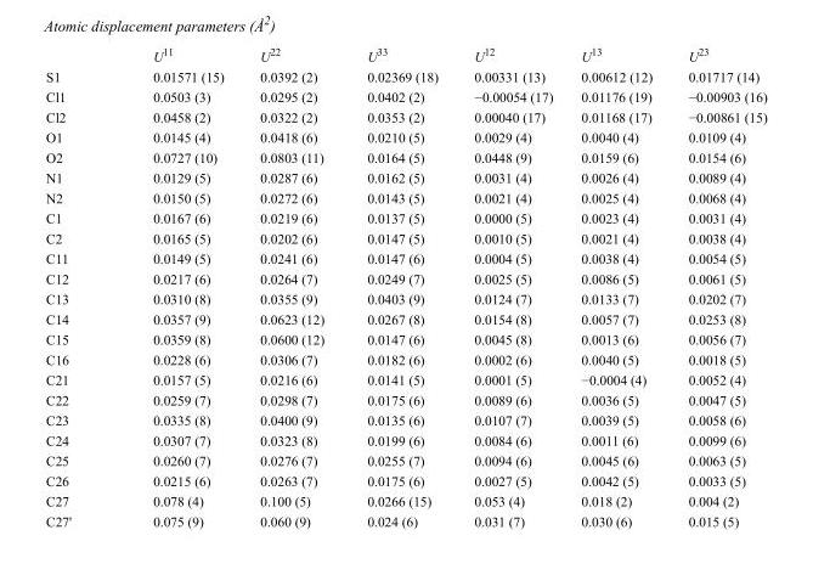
<table><thead><tr><td></td><td>U<sup>11</sup></td><td>U<sup>22</sup></td><td>U<sup>33</sup></td><td>U<sup>12</sup></td><td>U<sup>13</sup></td><td>U<sup>23</sup></td></tr></thead><tbody><tr><td>S1</td><td>0.01571 (15)</td><td>0.0392 (2)</td><td>0.02369 (18)</td><td>0.00331 (13)</td><td>0.00612 (12)</td><td>0.01717 (14)</td></tr><tr><td>Cl1</td><td>0.0503 (3)</td><td>0.0295 (2)</td><td>0.0402 (2)</td><td>−0.00054 (17)</td><td>0.01176 (19)</td><td>−0.00903 (16)</td></tr><tr><td>Cl2</td><td>0.0458 (2)</td><td>0.0322 (2)</td><td>0.0353 (2)</td><td>0.00040 (17)</td><td>0.01168 (17)</td><td>−0.00861 (15)</td></tr><tr><td>O1</td><td>0.0145 (4)</td><td>0.0418 (6)</td><td>0.0210 (5)</td><td>0.0029 (4)</td><td>0.0040 (4)</td><td>0.0109 (4)</td></tr><tr><td>O2</td><td>0.0727 (10)</td><td>0.0803 (11)</td><td>0.0164 (5)</td><td>0.0448 (9)</td><td>0.0159 (6)</td><td>0.0154 (6)</td></tr><tr><td>N1</td><td>0.0129 (5)</td><td>0.0287 (6)</td><td>0.0162 (5)</td><td>0.0031 (4)</td><td>0.0026 (4)</td><td>0.0089 (4)</td></tr><tr><td>N2</td><td>0.0150 (5)</td><td>0.0272 (6)</td><td>0.0143 (5)</td><td>0.0021 (4)</td><td>0.0025 (4)</td><td>0.0068 (4)</td></tr><tr><td>C1</td><td>0.0167 (6)</td><td>0.0219 (6)</td><td>0.0137 (5)</td><td>0.0000 (5)</td><td>0.0023 (4)</td><td>0.0031 (4)</td></tr><tr><td>C2</td><td>0.0165 (5)</td><td>0.0202 (6)</td><td>0.0147 (5)</td><td>0.0010 (5)</td><td>0.0021 (4)</td><td>0.0038 (4)</td></tr><tr><td>C11</td><td>0.0149 (5)</td><td>0.0241 (6)</td><td>0.0147 (6)</td><td>0.0004 (5)</td><td>0.0038 (4)</td><td>0.0054 (5)</td></tr><tr><td>C12</td><td>0.0217 (6)</td><td>0.0264 (7)</td><td>0.0249 (7)</td><td>0.0025 (5)</td><td>0.0086 (5)</td><td>0.0061 (5)</td></tr><tr><td>C13</td><td>0.0310 (8)</td><td>0.0355 (9)</td><td>0.0403 (9)</td><td>0.0124 (7)</td><td>0.0133 (7)</td><td>0.0202 (7)</td></tr><tr><td>C14</td><td>0.0357 (9)</td><td>0.0623 (12)</td><td>0.0267 (8)</td><td>0.0154 (8)</td><td>0.0057 (7)</td><td>0.0253 (8)</td></tr><tr><td>C15</td><td>0.0359 (8)</td><td>0.0600 (12)</td><td>0.0147 (6)</td><td>0.0045 (8)</td><td>0.0013 (6)</td><td>0.0056 (7)</td></tr><tr><td>C16</td><td>0.0228 (6)</td><td>0.0306 (7)</td><td>0.0182 (6)</td><td>0.0002 (6)</td><td>0.0040 (5)</td><td>0.0018 (5)</td></tr><tr><td>C21</td><td>0.0157 (5)</td><td>0.0216 (6)</td><td>0.0141 (5)</td><td>0.0001 (5)</td><td>−0.0004 (4)</td><td>0.0052 (4)</td></tr><tr><td>C22</td><td>0.0259 (7)</td><td>0.0298 (7)</td><td>0.0175 (6)</td><td>0.0089 (6)</td><td>0.0036 (5)</td><td>0.0047 (5)</td></tr><tr><td>C23</td><td>0.0335 (8)</td><td>0.0400 (9)</td><td>0.0135 (6)</td><td>0.0107 (7)</td><td>0.0039 (5)</td><td>0.0058 (6)</td></tr><tr><td>C24</td><td>0.0307 (7)</td><td>0.0323 (8)</td><td>0.0199 (6)</td><td>0.0084 (6)</td><td>0.0011 (6)</td><td>0.0099 (6)</td></tr><tr><td>C25</td><td>0.0260 (7)</td><td>0.0276 (7)</td><td>0.0255 (7)</td><td>0.0094 (6)</td><td>0.0045 (6)</td><td>0.0063 (5)</td></tr><tr><td>C26</td><td>0.0215 (6)</td><td>0.0263 (7)</td><td>0.0175 (6)</td><td>0.0027 (5)</td><td>0.0042 (5)</td><td>0.0033 (5)</td></tr><tr><td>C27</td><td>0.078 (4)</td><td>0.100 (5)</td><td>0.0266 (15)</td><td>0.053 (4)</td><td>0.018 (2)</td><td>0.004 (2)</td></tr><tr><td>C27&#x27;</td><td>0.075 (9)</td><td>0.060 (9)</td><td>0.024 (6)</td><td>0.031 (7)</td><td>0.030 (6)</td><td>0.015 (5)</td></tr></tbody></table>